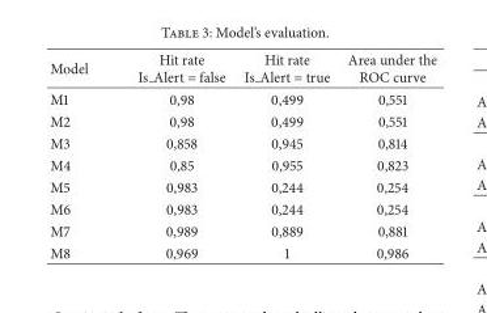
<table><thead><tr><td>Model</td><td>Hit rate Is Alert = false</td><td>Hit rate Is Alert = true</td><td>Area under the ROC curve</td></tr></thead><tbody><tr><td>M1</td><td>0,98</td><td>0,499</td><td>0,551</td></tr><tr><td>M2</td><td>0,98</td><td>0,499</td><td>0,551</td></tr><tr><td>M3</td><td>0,858</td><td>0,945</td><td>0,814</td></tr><tr><td>M4</td><td>0,85</td><td>0,955</td><td>0,823</td></tr><tr><td>M5</td><td>0,983</td><td>0,244</td><td>0,254</td></tr><tr><td>M6</td><td>0,983</td><td>0,244</td><td>0,254</td></tr><tr><td>M7</td><td>0,989</td><td>0,889</td><td>0,881</td></tr><tr><td>M8</td><td>0,969</td><td>1</td><td>0,986</td></tr></tbody></table>